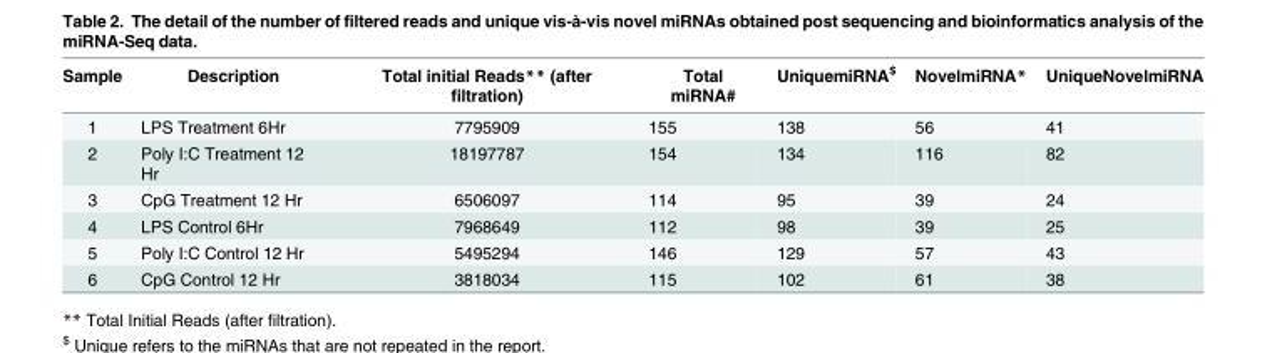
<table><thead><tr><td>Sample</td><td>Description</td><td>Total initial Reads** (after filtration)</td><td>Total miRNA#</td><td>UniquemiRNA<sup>$</sup></td><td>NovelmiRNA*</td><td>UniqueNovelmiRNA</td></tr></thead><tbody><tr><td>1</td><td>LPS Treatment 6Hr</td><td>7795909</td><td>155</td><td>138</td><td>56</td><td>41</td></tr><tr><td>2</td><td>Poly I:C Treatment 12 Hr</td><td>18197787</td><td>154</td><td>134</td><td>116</td><td>82</td></tr><tr><td>3</td><td>CpG Treatment 12 Hr</td><td>6506097</td><td>114</td><td>95</td><td>39</td><td>24</td></tr><tr><td>4</td><td>LPS Control 6Hr</td><td>7968649</td><td>112</td><td>98</td><td>39</td><td>25</td></tr><tr><td>5</td><td>Poly I:C Control 12 Hr</td><td>5495294</td><td>146</td><td>129</td><td>57</td><td>43</td></tr><tr><td>6</td><td>CpG Control 12 Hr</td><td>3818034</td><td>115</td><td>102</td><td>61</td><td>38</td></tr></tbody></table>